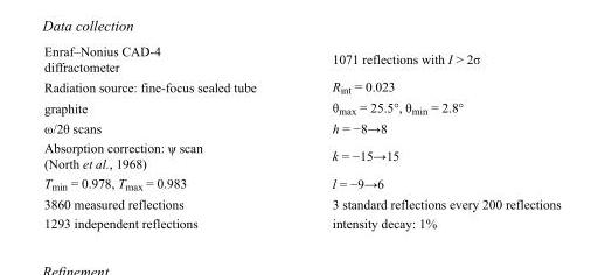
<table><tbody><tr><td>Enraf–Nonius CAD-4 diffractometer</td><td>1071 reflections with I &gt; 2σ</td></tr><tr><td>Radiation source: fine-focus sealed tube</td><td>R<sub>int</sub> = 0.023</td></tr><tr><td>graphite</td><td>θ<sub>max</sub> = 25.5°, θ<sub>min</sub> = 2.8°</td></tr><tr><td>ω/2θ scans</td><td>h = −8→8</td></tr><tr><td>Absorption correction: ψ scan (North et al., 1968)</td><td>k = −15→15</td></tr><tr><td>T<sub>min</sub> = 0.978, T<sub>max</sub> = 0.983</td><td>l = −9→6</td></tr><tr><td>3860 measured reflections</td><td>3 standard reflections every 200 reflections</td></tr><tr><td>1293 independent reflections</td><td>intensity decay: 1%</td></tr></tbody></table>